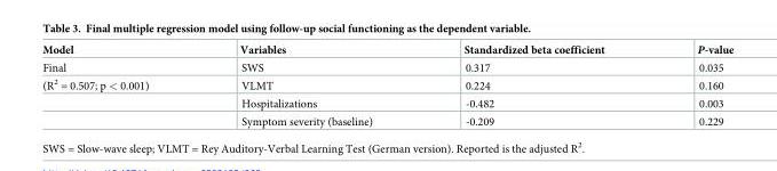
<table><thead><tr><td>Model</td><td>Variables</td><td>Standardized beta coefficient</td><td>P-value</td></tr></thead><tbody><tr><td>Final</td><td>SWS</td><td>0.317</td><td>0.035</td></tr><tr><td rowspan="3">(R<sup>2</sup> = 0.507; p &lt; 0.001)</td><td>VLMT</td><td>0.224</td><td>0.160</td></tr><tr><td>Hospitalizations</td><td>-0.482</td><td>0.003</td></tr><tr><td>Symptom severity (baseline)</td><td>-0.209</td><td>0.229</td></tr></tbody></table>